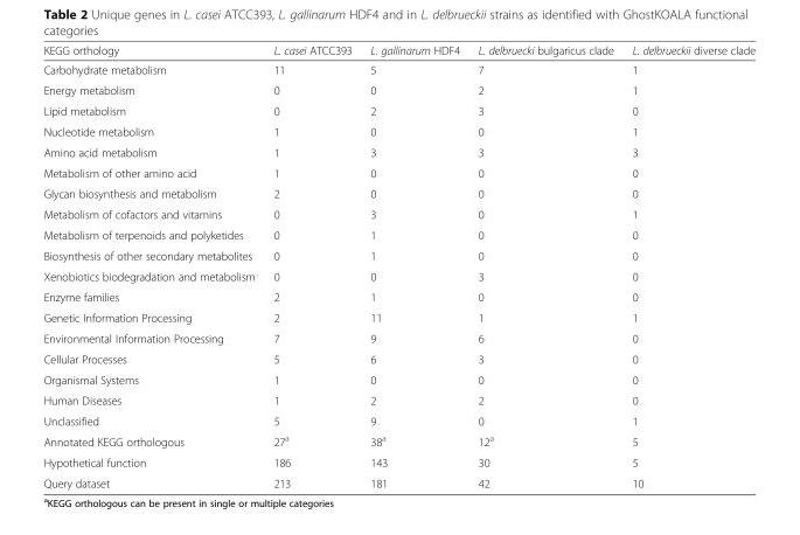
<table><thead><tr><td>KEGG orthology</td><td>L. casei ATCC393</td><td>L. gallinarum HDF4</td><td>L. delbruecki bulgaricus clade</td><td>L. delbrueckii diverse clade</td></tr></thead><tbody><tr><td>Carbohydrate metabolism</td><td>11</td><td>5</td><td>7</td><td>1</td></tr><tr><td>Energy metabolism</td><td>0</td><td>0</td><td>2</td><td>1</td></tr><tr><td>Lipid metabolism</td><td>0</td><td>2</td><td>3</td><td>0</td></tr><tr><td>Nucleotide metabolism</td><td>1</td><td>0</td><td>0</td><td>1</td></tr><tr><td>Amino acid metabolism</td><td>1</td><td>3</td><td>3</td><td>3</td></tr><tr><td>Metabolism of other amino acid</td><td>1</td><td>0</td><td>0</td><td>0</td></tr><tr><td>Glycan biosynthesis and metabolism</td><td>2</td><td>0</td><td>0</td><td>0</td></tr><tr><td>Metabolism of cofactors and vitamins</td><td>0</td><td>3</td><td>0</td><td>1</td></tr><tr><td>Metabolism of terpenoids and polyketides</td><td>0</td><td>1</td><td>0</td><td>0</td></tr><tr><td>Biosynthesis of other secondary metabolites</td><td>0</td><td>1</td><td>0</td><td>0</td></tr><tr><td>Xenobiotics biodegradation and metabolism</td><td>0</td><td>0</td><td>3</td><td>0</td></tr><tr><td>Enzyme families</td><td>2</td><td>1</td><td>0</td><td>0</td></tr><tr><td>Genetic Information Processing</td><td>2</td><td>11</td><td>1</td><td>1</td></tr><tr><td>Environmental Information Processing</td><td>7</td><td>9</td><td>6</td><td>0</td></tr><tr><td>Cellular Processes</td><td>5</td><td>6</td><td>3</td><td>0</td></tr><tr><td>Organismal Systems</td><td>1</td><td>0</td><td>0</td><td>0</td></tr><tr><td>Human Diseases</td><td>1</td><td>2</td><td>2</td><td>0</td></tr><tr><td>Unclassified</td><td>5</td><td>9</td><td>0</td><td>1</td></tr><tr><td>Annotated KEGG orthologous</td><td>27<sup>a</sup></td><td>38<sup>a</sup></td><td>12<sup>a</sup></td><td>5</td></tr><tr><td>Hypothetical function</td><td>186</td><td>143</td><td>30</td><td>5</td></tr><tr><td>Query dataset</td><td>213</td><td>181</td><td>42</td><td>10</td></tr></tbody></table>